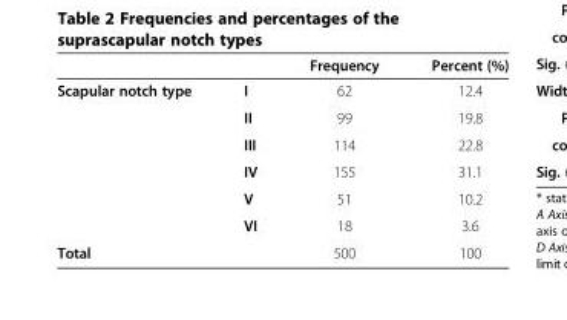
<table><thead><tr><td></td><td></td><td>Frequency</td><td>Percent (%)</td></tr></thead><tbody><tr><td rowspan="6">Scapular notch type</td><td>I</td><td>62</td><td>12.4</td></tr><tr><td>II</td><td>99</td><td>19.8</td></tr><tr><td>III</td><td>114</td><td>22.8</td></tr><tr><td>IV</td><td>155</td><td>31.1</td></tr><tr><td>V</td><td>51</td><td>10.2</td></tr><tr><td>VI</td><td>18</td><td>3.6</td></tr><tr><td colspan="2">Total</td><td>500</td><td>100</td></tr></tbody></table>